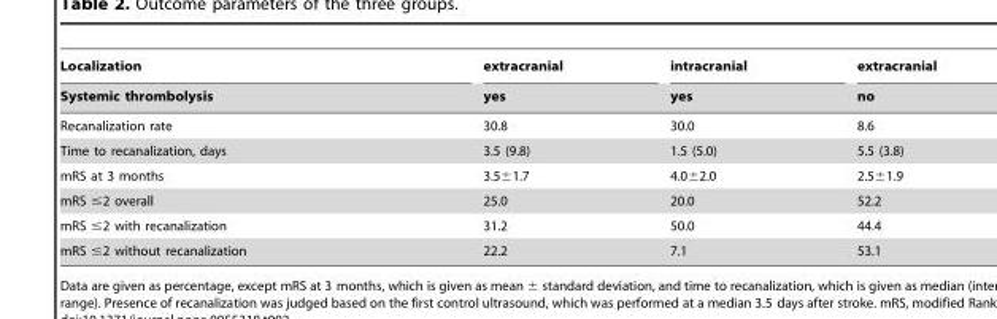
<table><thead><tr><td rowspan="2">Localization Systemic thrombolysis</td><td rowspan="2">extracranial yes</td><td rowspan="2">intracranial yes</td><td rowspan="2">extracranial no</td></tr><tr></tr></thead><tbody><tr><td>Recanalization rate</td><td>30.8</td><td>30.0</td><td>8.6</td></tr><tr><td>Time to recanalization, days</td><td>3.5 (9.8)</td><td>1.5 (5.0)</td><td>5.5 (3.8)</td></tr><tr><td>mRS at 3 months</td><td>3.5±1.7</td><td>4.0±2.0</td><td>2.5±1.9</td></tr><tr><td>mRS ≤2 overall</td><td>25.0</td><td>20.0</td><td>52.2</td></tr><tr><td>mRS ≤2 with recanalization</td><td>31.2</td><td>50.0</td><td>44.4</td></tr><tr><td>mRS ≤2 without recanalization</td><td>22.2</td><td>7.1</td><td>53.1</td></tr></tbody></table>